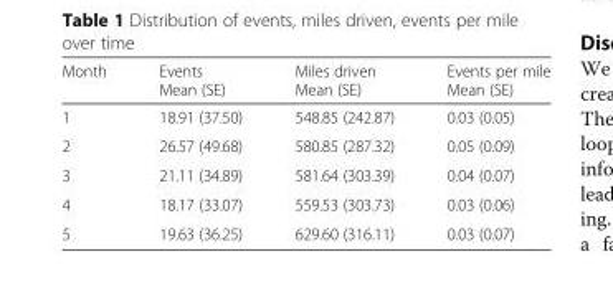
<table><thead><tr><td>Month</td><td>Events Mean (SE)</td><td>Miles driven Mean (SE)</td><td>Events per mile Mean (SE)</td></tr></thead><tbody><tr><td>1</td><td>18.91 (37.50)</td><td>548.85 (242.87)</td><td>0.03 (0.05)</td></tr><tr><td>2</td><td>26.57 (49.68)</td><td>580.85 (287.32)</td><td>0.05 (0.09)</td></tr><tr><td>3</td><td>21.11 (34.89)</td><td>581.64 (303.39)</td><td>0.04 (0.07)</td></tr><tr><td>4</td><td>18.17 (33.07)</td><td>559.53 (303.73)</td><td>0.03 (0.06)</td></tr><tr><td>5</td><td>19.63 (36.25)</td><td>629.60 (316.11)</td><td>0.03 (0.07)</td></tr></tbody></table>